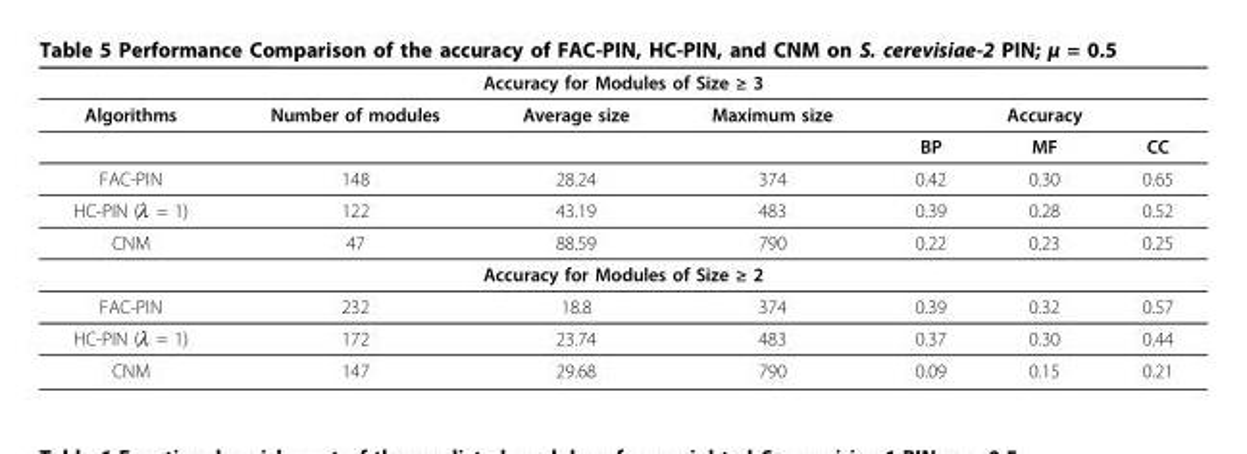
<table><thead><tr><td colspan="7">Accuracy for Modules of Size ≥ 3</td></tr><tr><td rowspan="2">Algorithms</td><td rowspan="2">Number of modules</td><td rowspan="2">Average size</td><td rowspan="2">Maximum size</td><td colspan="3">Accuracy</td></tr><tr><td>BP</td><td>MF</td><td>CC</td></tr></thead><tbody><tr><td>FAC-PIN</td><td>148</td><td>28.24</td><td>374</td><td>0.42</td><td>0.30</td><td>0.65</td></tr><tr><td>HC-PIN (λ = 1)</td><td>122</td><td>43.19</td><td>483</td><td>0.39</td><td>0.28</td><td>0.52</td></tr><tr><td>CNM</td><td>47</td><td>88.59</td><td>790</td><td>0.22</td><td>0.23</td><td>0.25</td></tr><tr><td colspan="7">Accuracy for Modules of Size ≥ 2</td></tr><tr><td>FAC-PIN</td><td>232</td><td>18.8</td><td>374</td><td>0.39</td><td>0.32</td><td>0.57</td></tr><tr><td>HC-PIN (λ = 1)</td><td>172</td><td>23.74</td><td>483</td><td>0.37</td><td>0.30</td><td>0.44</td></tr><tr><td>CNM</td><td>147</td><td>29.68</td><td>790</td><td>0.09</td><td>0.15</td><td>0.21</td></tr></tbody></table>